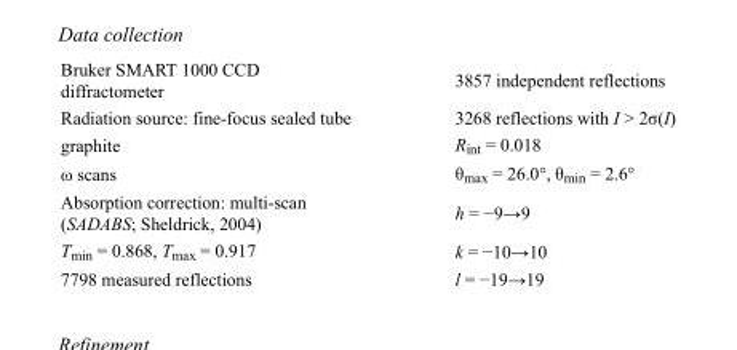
<table><tbody><tr><td>Bruker SMART 1000 CCD diffractometer</td><td>3857 independent reflections</td></tr><tr><td>Radiation source: fine-focus sealed tube</td><td>3268 reflections with I &gt; 2σ(I)</td></tr><tr><td>graphite</td><td>R<sub>int</sub> = 0.018</td></tr><tr><td>ω scans</td><td>θ<sub>max</sub> = 26.0°, θ<sub>min</sub> = 2.6°</td></tr><tr><td>Absorption correction: multi-scan (SADABS; Sheldrick, 2004)</td><td>h = −9→9</td></tr><tr><td>T<sub>min</sub> = 0.868, T<sub>max</sub> = 0.917</td><td>k = −10→10</td></tr><tr><td>7798 measured reflections</td><td>l = −19→19</td></tr></tbody></table>